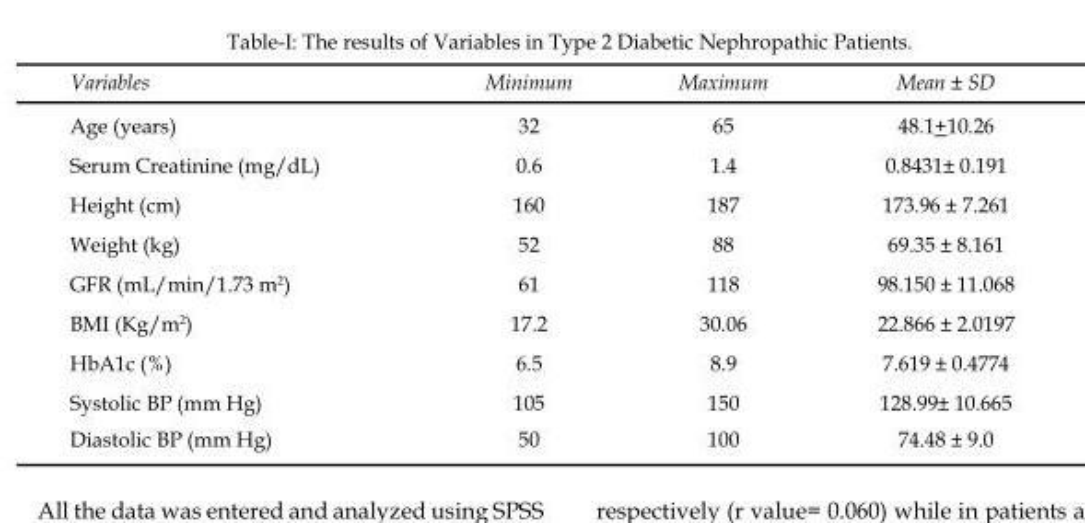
<table><thead><tr><td>Variables</td><td>Minimum</td><td>Maximum</td><td>Mean ± SD</td></tr></thead><tbody><tr><td>Age (years)</td><td>32</td><td>65</td><td>48.1+10.26</td></tr><tr><td>Serum Creatinine (mg/dL)</td><td>0.6</td><td>1.4</td><td>0.8431± 0.191</td></tr><tr><td>Height (cm)</td><td>160</td><td>187</td><td>173.96 ± 7.261</td></tr><tr><td>Weight (kg)</td><td>52</td><td>88</td><td>69.35 ± 8.161</td></tr><tr><td>GFR (mL/min/1.73 m<sup>2</sup>)</td><td>61</td><td>118</td><td>98.150 ± 11.068</td></tr><tr><td>BMI (Kg/m<sup>2</sup>)</td><td>17.2</td><td>30.06</td><td>22.866 ± 2.0197</td></tr><tr><td>HbA1c (%)</td><td>6.5</td><td>8.9</td><td>7.619 ± 0.4774</td></tr><tr><td>Systolic BP (mm Hg)</td><td>105</td><td>150</td><td>128.99± 10.665</td></tr><tr><td>Diastolic BP (mm Hg)</td><td>50</td><td>100</td><td>74.48 ± 9.0</td></tr></tbody></table>